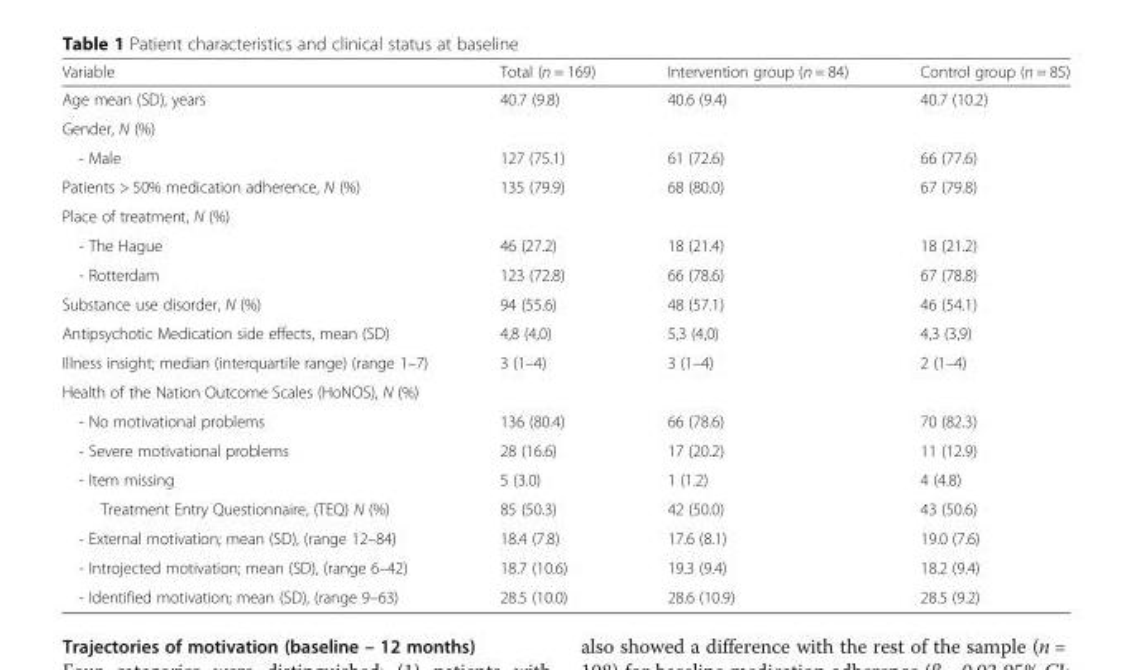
<table><thead><tr><td>Variable</td><td>Total (n = 169)</td><td>Intervention group (n = 84)</td><td>Control group (n = 85)</td></tr></thead><tbody><tr><td>Age mean (SD), years</td><td>40.7 (9.8)</td><td>40.6 (9.4)</td><td>40.7 (10.2)</td></tr><tr><td colspan="4">Gender, N (%)</td></tr><tr><td>- Male</td><td>127 (75.1)</td><td>61 (72.6)</td><td>66 (77.6)</td></tr><tr><td>Patients &gt; 50% medication adherence, N (%)</td><td>135 (79.9)</td><td>68 (80.0)</td><td>67 (79.8)</td></tr><tr><td colspan="4">Place of treatment, N (%)</td></tr><tr><td>- The Hague</td><td>46 (27.2)</td><td>18 (21.4)</td><td>18 (21.2)</td></tr><tr><td>- Rotterdam</td><td>123 (72.8)</td><td>66 (78.6)</td><td>67 (78.8)</td></tr><tr><td>Substance use disorder, N (%)</td><td>94 (55.6)</td><td>48 (57.1)</td><td>46 (54.1)</td></tr><tr><td>Antipsychotic Medication side effects, mean (SD)</td><td>4,8 (4,0)</td><td>5,3 (4,0)</td><td>4,3 (3,9)</td></tr><tr><td>Illness insight; median (interquartile range) (range 1–7)</td><td>3 (1–4)</td><td>3 (1–4)</td><td>2 (1–4)</td></tr><tr><td colspan="4">Health of the Nation Outcome Scales (HoNOS), N (%)</td></tr><tr><td>- No motivational problems</td><td>136 (80.4)</td><td>66 (78.6)</td><td>70 (82.3)</td></tr><tr><td>- Severe motivational problems</td><td>28 (16.6)</td><td>17 (20.2)</td><td>11 (12.9)</td></tr><tr><td>- Item missing</td><td>5 (3.0)</td><td>1 (1.2)</td><td>4 (4.8)</td></tr><tr><td>Treatment Entry Questionnaire, (TEQ) N (%)</td><td>85 (50.3)</td><td>42 (50.0)</td><td>43 (50.6)</td></tr><tr><td>- External motivation; mean (SD), (range 12–84)</td><td>18.4 (7.8)</td><td>17.6 (8.1)</td><td>19.0 (7.6)</td></tr><tr><td>- Introjected motivation; mean (SD), (range 6–42)</td><td>18.7 (10.6)</td><td>19.3 (9.4)</td><td>18.2 (9.4)</td></tr><tr><td>- Identified motivation; mean (SD), (range 9–63)</td><td>28.5 (10.0)</td><td>28.6 (10.9)</td><td>28.5 (9.2)</td></tr></tbody></table>